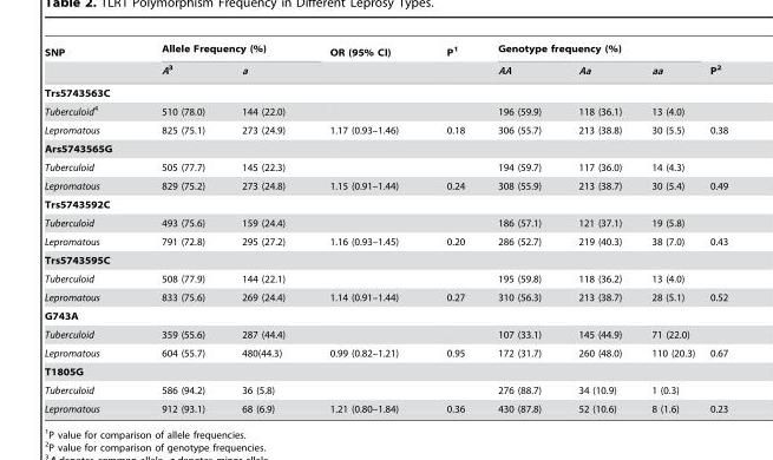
<table><thead><tr><td rowspan="2">SNP</td><td colspan="2">Allele Frequency (%)</td><td rowspan="2">OR (95% CI)</td><td rowspan="2">P<sup>1</sup></td><td colspan="3">Genotype frequency (%)</td><td rowspan="2">P<sup>2</sup></td></tr><tr><td>A3</td><td>a</td><td>AA</td><td>Aa</td><td>aa</td></tr></thead><tbody><tr><td colspan="9">Trs5743563C</td></tr><tr><td>Tuberculoid4</td><td>510 (78.0)</td><td>144 (22.0)</td><td></td><td></td><td>196 (59.9)</td><td>118 (36.1)</td><td>13 (4.0)</td><td></td></tr><tr><td>Lepromatous</td><td>825 (75.1)</td><td>273 (24.9)</td><td>1.17 (0.93–1.46)</td><td>0.18</td><td>306 (55.7)</td><td>213 (38.8)</td><td>30 (5.5)</td><td>0.38</td></tr><tr><td colspan="9">Ars5743565G</td></tr><tr><td>Tuberculoid</td><td>505 (77.7)</td><td>145 (22.3)</td><td></td><td></td><td>194 (59.7)</td><td>117 (36.0)</td><td>14 (4.3)</td><td></td></tr><tr><td>Lepromatous</td><td>829 (75.2)</td><td>273 (24.8)</td><td>1.15 (0.91–1.44)</td><td>0.24</td><td>308 (55.9)</td><td>213 (38.7)</td><td>30 (5.4)</td><td>0.49</td></tr><tr><td colspan="9">Trs5743592C</td></tr><tr><td>Tuberculoid</td><td>493 (75.6)</td><td>159 (24.4)</td><td></td><td></td><td>186 (57.1)</td><td>121 (37.1)</td><td>19 (5.8)</td><td></td></tr><tr><td>Lepromatous</td><td>791 (72.8)</td><td>295 (27.2)</td><td>1.16 (0.93–1.45)</td><td>0.20</td><td>286 (52.7)</td><td>219 (40.3)</td><td>38 (7.0)</td><td>0.43</td></tr><tr><td colspan="9">Trs5743595C</td></tr><tr><td>Tuberculoid</td><td>508 (77.9)</td><td>144 (22.1)</td><td></td><td></td><td>195 (59.8)</td><td>118 (36.2)</td><td>13 (4.0)</td><td></td></tr><tr><td>Lepromatous</td><td>833 (75.6)</td><td>269 (24.4)</td><td>1.14 (0.91–1.44)</td><td>0.27</td><td>310 (56.3)</td><td>213 (38.7)</td><td>28 (5.1)</td><td>0.52</td></tr><tr><td colspan="9">G743A</td></tr><tr><td>Tuberculoid</td><td>359 (55.6)</td><td>287 (44.4)</td><td></td><td></td><td>107 (33.1)</td><td>145 (44.9)</td><td>71 (22.0)</td><td></td></tr><tr><td>Lepromatous</td><td>604 (55.7)</td><td>480(44.3)</td><td>0.99 (0.82–1.21)</td><td>0.95</td><td>172 (31.7)</td><td>260 (48.0)</td><td>110 (20.3)</td><td>0.67</td></tr><tr><td colspan="9">T1805G</td></tr><tr><td>Tuberculoid</td><td>586 (94.2)</td><td>36 (5.8)</td><td></td><td></td><td>276 (88.7)</td><td>34 (10.9)</td><td>1 (0.3)</td><td></td></tr><tr><td>Lepromatous</td><td>912 (93.1)</td><td>68 (6.9)</td><td>1.21 (0.80–1.84)</td><td>0.36</td><td>430 (87.8)</td><td>52 (10.6)</td><td>8 (1.6)</td><td>0.23</td></tr></tbody></table>